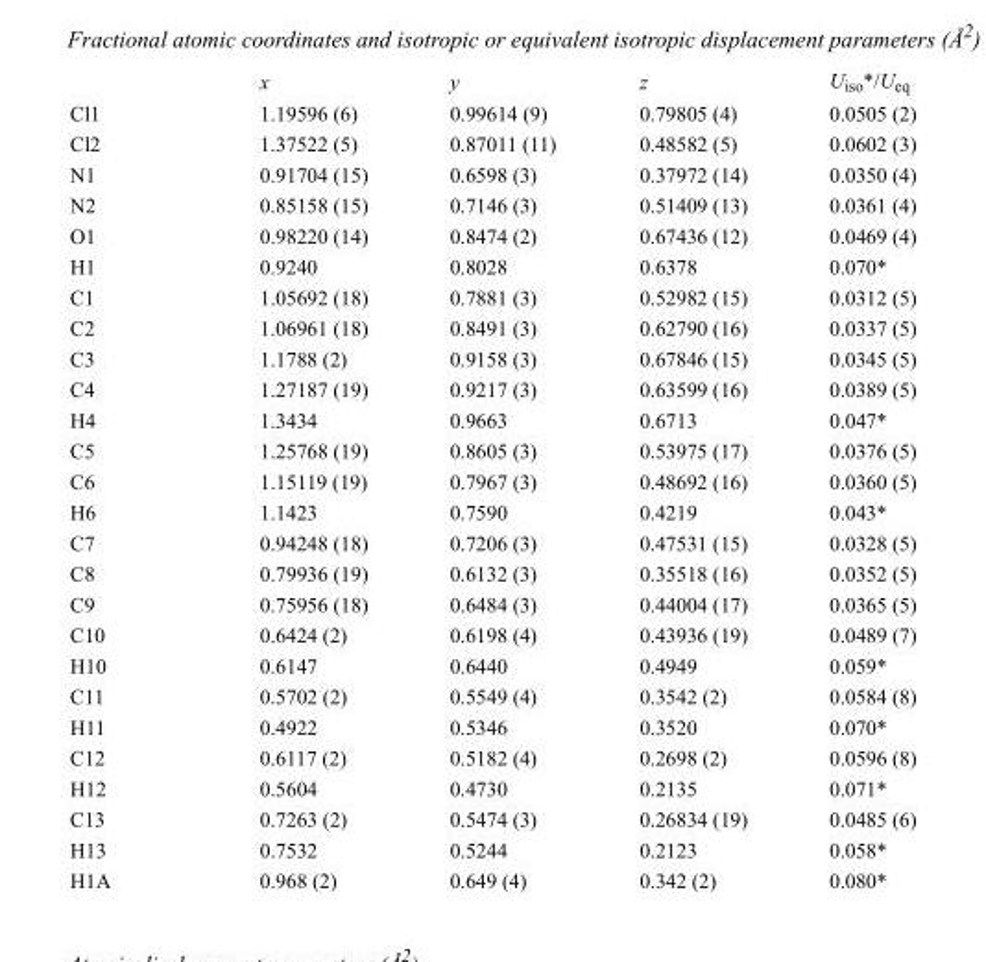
<table><thead><tr><td></td><td>x</td><td>y</td><td>z</td><td>U<sub>iso</sub>*/U<sub>eq</sub></td></tr></thead><tbody><tr><td>Cl1</td><td>1.19596 (6)</td><td>0.99614 (9)</td><td>0.79805 (4)</td><td>0.0505 (2)</td></tr><tr><td>Cl2</td><td>1.37522 (5)</td><td>0.87011 (11)</td><td>0.48582 (5)</td><td>0.0602 (3)</td></tr><tr><td>N1</td><td>0.91704 (15)</td><td>0.6598 (3)</td><td>0.37972 (14)</td><td>0.0350 (4)</td></tr><tr><td>N2</td><td>0.85158 (15)</td><td>0.7146 (3)</td><td>0.51409 (13)</td><td>0.0361 (4)</td></tr><tr><td>O1</td><td>0.98220 (14)</td><td>0.8474 (2)</td><td>0.67436 (12)</td><td>0.0469 (4)</td></tr><tr><td>H1</td><td>0.9240</td><td>0.8028</td><td>0.6378</td><td>0.070*</td></tr><tr><td>C1</td><td>1.05692 (18)</td><td>0.7881 (3)</td><td>0.52982 (15)</td><td>0.0312 (5)</td></tr><tr><td>C2</td><td>1.06961 (18)</td><td>0.8491 (3)</td><td>0.62790 (16)</td><td>0.0337 (5)</td></tr><tr><td>C3</td><td>1.1788 (2)</td><td>0.9158 (3)</td><td>0.67846 (15)</td><td>0.0345 (5)</td></tr><tr><td>C4</td><td>1.27187 (19)</td><td>0.9217 (3)</td><td>0.63599 (16)</td><td>0.0389 (5)</td></tr><tr><td>H4</td><td>1.3434</td><td>0.9663</td><td>0.6713</td><td>0.047*</td></tr><tr><td>C5</td><td>1.25768 (19)</td><td>0.8605 (3)</td><td>0.53975 (17)</td><td>0.0376 (5)</td></tr><tr><td>C6</td><td>1.15119 (19)</td><td>0.7967 (3)</td><td>0.48692 (16)</td><td>0.0360 (5)</td></tr><tr><td>H6</td><td>1.1423</td><td>0.7590</td><td>0.4219</td><td>0.043*</td></tr><tr><td>C7</td><td>0.94248 (18)</td><td>0.7206 (3)</td><td>0.47531 (15)</td><td>0.0328 (5)</td></tr><tr><td>C8</td><td>0.79936 (19)</td><td>0.6132 (3)</td><td>0.35518 (16)</td><td>0.0352 (5)</td></tr><tr><td>C9</td><td>0.75956 (18)</td><td>0.6484 (3)</td><td>0.44004 (17)</td><td>0.0365 (5)</td></tr><tr><td>C10</td><td>0.6424 (2)</td><td>0.6198 (4)</td><td>0.43936 (19)</td><td>0.0489 (7)</td></tr><tr><td>H10</td><td>0.6147</td><td>0.6440</td><td>0.4949</td><td>0.059*</td></tr><tr><td>C11</td><td>0.5702 (2)</td><td>0.5549 (4)</td><td>0.3542 (2)</td><td>0.0584 (8)</td></tr><tr><td>H11</td><td>0.4922</td><td>0.5346</td><td>0.3520</td><td>0.070*</td></tr><tr><td>C12</td><td>0.6117 (2)</td><td>0.5182 (4)</td><td>0.2698 (2)</td><td>0.0596 (8)</td></tr><tr><td>H12</td><td>0.5604</td><td>0.4730</td><td>0.2135</td><td>0.071*</td></tr><tr><td>C13</td><td>0.7263 (2)</td><td>0.5474 (3)</td><td>0.26834 (19)</td><td>0.0485 (6)</td></tr><tr><td>H13</td><td>0.7532</td><td>0.5244</td><td>0.2123</td><td>0.058*</td></tr><tr><td>H1A</td><td>0.968 (2)</td><td>0.649 (4)</td><td>0.342 (2)</td><td>0.080*</td></tr></tbody></table>